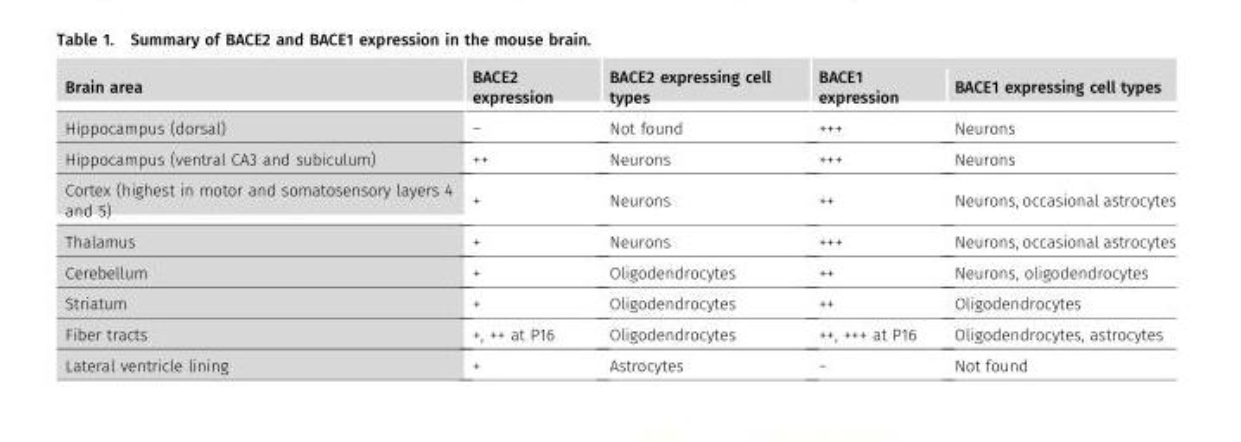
<table><thead><tr><td>Brain area</td><td>BACE2 expression</td><td>BACE2 expressing cell types</td><td>BACE1 expression</td><td>BACE1 expressing cell types</td></tr></thead><tbody><tr><td>Hippocampus (dorsal)</td><td>−</td><td>Not found</td><td>+++</td><td>Neurons</td></tr><tr><td>Hippocampus (ventral CA3 and subiculum)</td><td>++</td><td>Neurons</td><td>+++</td><td>Neurons</td></tr><tr><td>Cortex (highest in motor and somatosensory layers 4 and 5)</td><td>+</td><td>Neurons</td><td>++</td><td>Neurons, occasional astrocytes</td></tr><tr><td>Thalamus</td><td>+</td><td>Neurons</td><td>+++</td><td>Neurons, occasional astrocytes</td></tr><tr><td>Cerebellum</td><td>+</td><td>Oligodendrocytes</td><td>++</td><td>Neurons, oligodendrocytes</td></tr><tr><td>Striatum</td><td>+</td><td>Oligodendrocytes</td><td>++</td><td>Oligodendrocytes</td></tr><tr><td>Fiber tracts</td><td>+, ++ at P16</td><td>Oligodendrocytes</td><td>++, +++ at P16</td><td>Oligodendrocytes, astrocytes</td></tr><tr><td>Lateral ventricle lining</td><td>+</td><td>Astrocytes</td><td>−</td><td>Not found</td></tr></tbody></table>